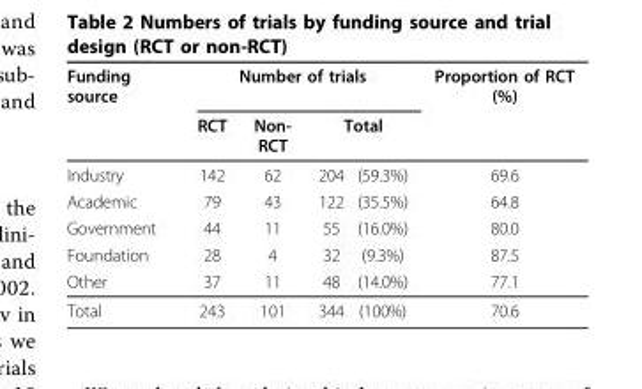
<table><thead><tr><td rowspan="3">Funding source Industry</td><td colspan="4">Number of trials</td><td rowspan="3">Proportion of RCT (%) 69.6</td></tr><tr><td rowspan="2">RCT 142</td><td rowspan="2">Non- RCT 62</td><td colspan="2">Total</td></tr><tr><td>204</td><td>(59.3%)</td></tr></thead><tbody><tr><td>Academic</td><td>79</td><td>43</td><td>122</td><td>(35.5%)</td><td>64.8</td></tr><tr><td>Government</td><td>44</td><td>11</td><td>55</td><td>(16.0%)</td><td>80.0</td></tr><tr><td>Foundation</td><td>28</td><td>4</td><td>32</td><td>(9.3%)</td><td>87.5</td></tr><tr><td>Other</td><td>37</td><td>11</td><td>48</td><td>(14.0%)</td><td>77.1</td></tr><tr><td>Total</td><td>243</td><td>101</td><td>344</td><td>(100%)</td><td>70.6</td></tr></tbody></table>